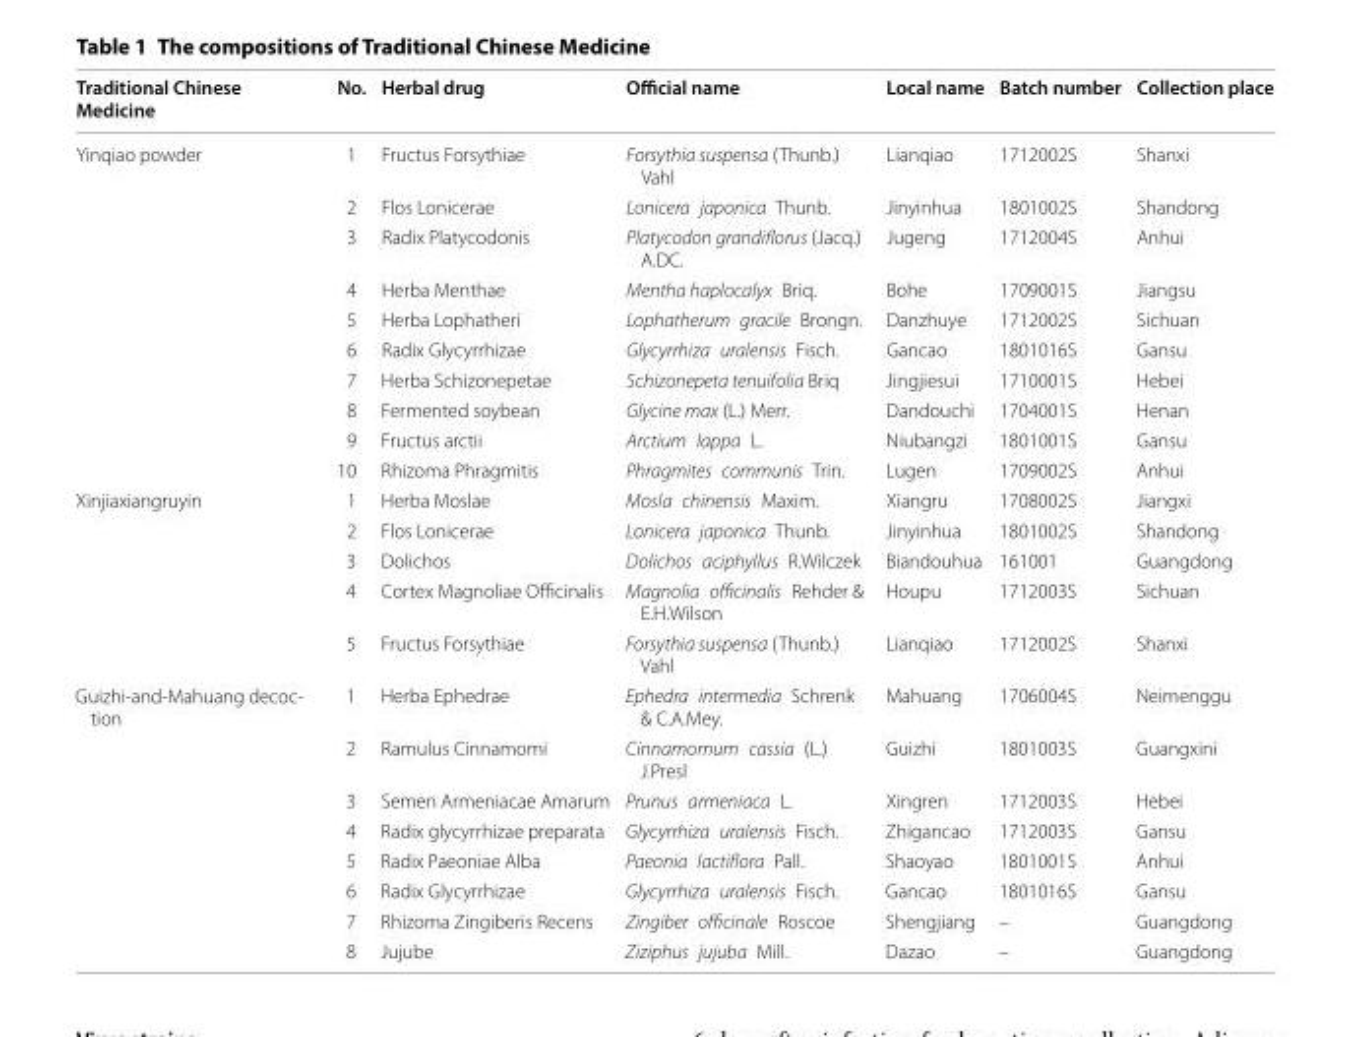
<table><thead><tr><td>Traditional Chinese Medicine</td><td>No.</td><td>Herbal drug</td><td>Official name</td><td>Local name</td><td>Batch number</td><td>Collection place</td></tr></thead><tbody><tr><td rowspan="10">Yinqiao powder</td><td>1</td><td>Fructus Forsythiae</td><td>Forsythia suspensa (Thunb.) Vahl</td><td>Lianqiao</td><td>1712002S</td><td>Shanxi</td></tr><tr><td>2</td><td>Flos Lonicerae</td><td>Lonicera japonica Thunb.</td><td>Jinyinhua</td><td>1801002S</td><td>Shandong</td></tr><tr><td>3</td><td>Radix Platycodonis</td><td>Platycodon grandiflorus (Jacq.) A.DC.</td><td>Jugeng</td><td>1712004S</td><td>Anhui</td></tr><tr><td>4</td><td>Herba Menthae</td><td>Mentha haplocalyx Briq.</td><td>Bohe</td><td>1709001S</td><td>Jiangsu</td></tr><tr><td>5</td><td>Herba Lophatheri</td><td>Lophatherum gracile Brongn.</td><td>Danzhuye</td><td>1712002S</td><td>Sichuan</td></tr><tr><td>6</td><td>Radix Glycyrrhizae</td><td>Glycyrrhiza uralensis Fisch.</td><td>Gancao</td><td>1801016S</td><td>Gansu</td></tr><tr><td>7</td><td>Herba Schizonepetae</td><td>Schizonepeta tenuifolia Briq</td><td>Jingjiesui</td><td>1710001S</td><td>Hebei</td></tr><tr><td>8</td><td>Fermented soybean</td><td>Glycine max (L.) Merr.</td><td>Dandouchi</td><td>1704001S</td><td>Henan</td></tr><tr><td>9</td><td>Fructus arctii</td><td>Arctium lappa L.</td><td>Niubangzi</td><td>1801001S</td><td>Gansu</td></tr><tr><td>10</td><td>Rhizoma Phragmitis</td><td>Phragmites communis Trin.</td><td>Lugen</td><td>1709002S</td><td>Anhui</td></tr><tr><td rowspan="5">Xinjiaxiangruyin</td><td>1</td><td>Herba Moslae</td><td>Mosla chinensis Maxim.</td><td>Xiangru</td><td>1708002S</td><td>Jiangxi</td></tr><tr><td>2</td><td>Flos Lonicerae</td><td>Lonicera japonica Thunb.</td><td>Jinyinhua</td><td>1801002S</td><td>Shandong</td></tr><tr><td>3</td><td>Dolichos</td><td>Dolichos aciphyllus R.Wilczek</td><td>Biandouhua</td><td>161001</td><td>Guangdong</td></tr><tr><td>4</td><td>Cortex Magnoliae Officinalis</td><td>Magnolia officinalis Rehder &amp; E.H.Wilson</td><td>Houpu</td><td>1712003S</td><td>Sichuan</td></tr><tr><td>5</td><td>Fructus Forsythiae</td><td>Forsythia suspensa (Thunb.) Vahl</td><td>Lianqiao</td><td>1712002S</td><td>Shanxi</td></tr><tr><td rowspan="8">Guizhi‑and‑Mahuang decoc‑ tion</td><td>1</td><td>Herba Ephedrae</td><td>Ephedra intermedia Schrenk &amp; C.A.Mey.</td><td>Mahuang</td><td>1706004S</td><td>Neimenggu</td></tr><tr><td>2</td><td>Ramulus Cinnamomi</td><td>Cinnamomum cassia (L.) J.Presl</td><td>Guizhi</td><td>1801003S</td><td>Guangxini</td></tr><tr><td>3</td><td>Semen Armeniacae Amarum</td><td>Prunus armeniaca L.</td><td>Xingren</td><td>1712003S</td><td>Hebei</td></tr><tr><td>4</td><td>Radix glycyrrhizae preparata</td><td>Glycyrrhiza uralensis Fisch.</td><td>Zhigancao</td><td>1712003S</td><td>Gansu</td></tr><tr><td>5</td><td>Radix Paeoniae Alba</td><td>Paeonia lactiflora Pall.</td><td>Shaoyao</td><td>1801001S</td><td>Anhui</td></tr><tr><td>6</td><td>Radix Glycyrrhizae</td><td>Glycyrrhiza uralensis Fisch.</td><td>Gancao</td><td>1801016S</td><td>Gansu</td></tr><tr><td>7</td><td>Rhizoma Zingiberis Recens</td><td>Zingiber officinale Roscoe</td><td>Shengjiang</td><td>–</td><td>Guangdong</td></tr><tr><td>8</td><td>Jujube</td><td>Ziziphus jujuba Mill.</td><td>Dazao</td><td>–</td><td>Guangdong</td></tr></tbody></table>